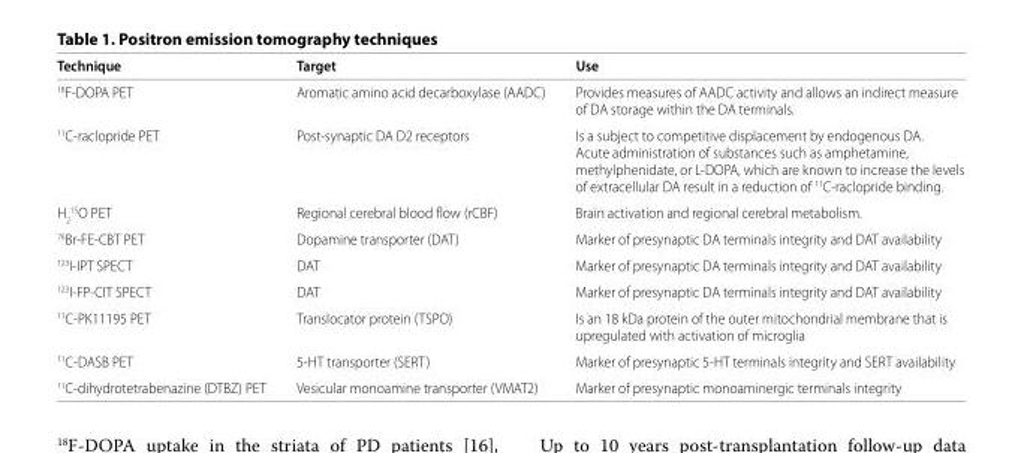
<table><thead><tr><td>Technique</td><td>Target</td><td>Use</td></tr></thead><tbody><tr><td><sup>18</sup>F-DOPA PET</td><td>Aromatic amino acid decarboxylase (AADC)</td><td>Provides measures of AADC activity and allows an indirect measure of DA storage within the DA terminals.</td></tr><tr><td><sup>11</sup>C-raclopride PET</td><td>Post-synaptic DA D2 receptors</td><td>Is a subject to competitive displacement by endogenous DA. Acute administration of substances such as amphetamine, methylphenidate, or L-DOPA, which are known to increase the levels of extracellular DA result in a reduction of <sup>11</sup>C-raclopride binding.</td></tr><tr><td>H<sub>2</sub> <sup>15</sup>O PET</td><td>Regional cerebral blood flow (rCBF)</td><td>Brain activation and regional cerebral metabolism.</td></tr><tr><td><sup>76</sup>Br-FE-CBT PET</td><td>Dopamine transporter (DAT)</td><td>Marker of presynaptic DA terminals integrity and DAT availability</td></tr><tr><td><sup>123</sup>I-IPT SPECT</td><td>DAT</td><td>Marker of presynaptic DA terminals integrity and DAT availability</td></tr><tr><td><sup>123</sup>I-FP-CIT SPECT</td><td>DAT</td><td>Marker of presynaptic DA terminals integrity and DAT availability</td></tr><tr><td><sup>11</sup>C-PK11195 PET</td><td>Translocator protein (TSPO)</td><td>Is an 18 kDa protein of the outer mitochondrial membrane that is upregulated with activation of microglia</td></tr><tr><td><sup>11</sup>C-DASB PET</td><td>5-HT transporter (SERT)</td><td>Marker of presynaptic 5-HT terminals integrity and SERT availability</td></tr><tr><td><sup>11</sup>C-dihydrotetrabenazine (DTBZ) PET</td><td>Vesicular monoamine transporter (VMAT2)</td><td>Marker of presynaptic monoaminergic terminals integrity</td></tr></tbody></table>